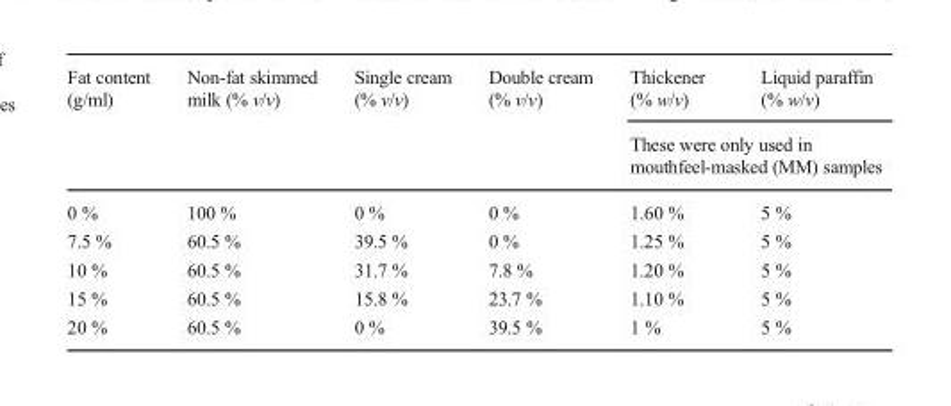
<table><thead><tr><td rowspan="2">Fat content (g/ml)</td><td rowspan="2">Non-fat skimmed milk (% v/v)</td><td rowspan="2">Single cream (% v/v)</td><td rowspan="2">Double cream (% v/v)</td><td>Thickener (% w/v)</td><td>Liquid paraffin (% w/v)</td></tr><tr><td colspan="2">These were only used in mouthfeel-masked (MM) samples</td></tr></thead><tbody><tr><td>0 %</td><td>100 %</td><td>0 %</td><td>0 %</td><td>1.60 %</td><td>5 %</td></tr><tr><td>7.5 %</td><td>60.5 %</td><td>39.5 %</td><td>0 %</td><td>1.25 %</td><td>5 %</td></tr><tr><td>10 %</td><td>60.5 %</td><td>31.7 %</td><td>7.8 %</td><td>1.20 %</td><td>5 %</td></tr><tr><td>15 %</td><td>60.5 %</td><td>15.8 %</td><td>23.7 %</td><td>1.10 %</td><td>5 %</td></tr><tr><td>20 %</td><td>60.5 %</td><td>0 %</td><td>39.5 %</td><td>1 %</td><td>5 %</td></tr></tbody></table>